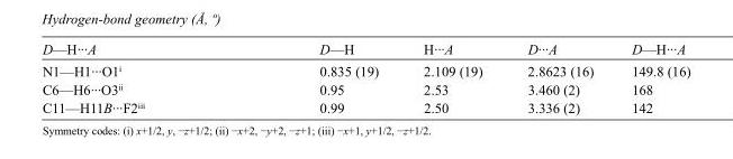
<table><tbody><tr><td>D—H···A</td><td>D—H</td><td>H···A</td><td>D···A</td><td>D—H···A</td></tr><tr><td>N1—H1···O1<sup>i</sup></td><td>0.835 (19)</td><td>2.109 (19)</td><td>2.8623 (16)</td><td>149.8 (16)</td></tr><tr><td>C6—H6···O3<sup>ii</sup></td><td>0.95</td><td>2.53</td><td>3.460 (2)</td><td>168</td></tr><tr><td>C11—H11B···F2<sup>iii</sup></td><td>0.99</td><td>2.50</td><td>3.336 (2)</td><td>142</td></tr></tbody></table>